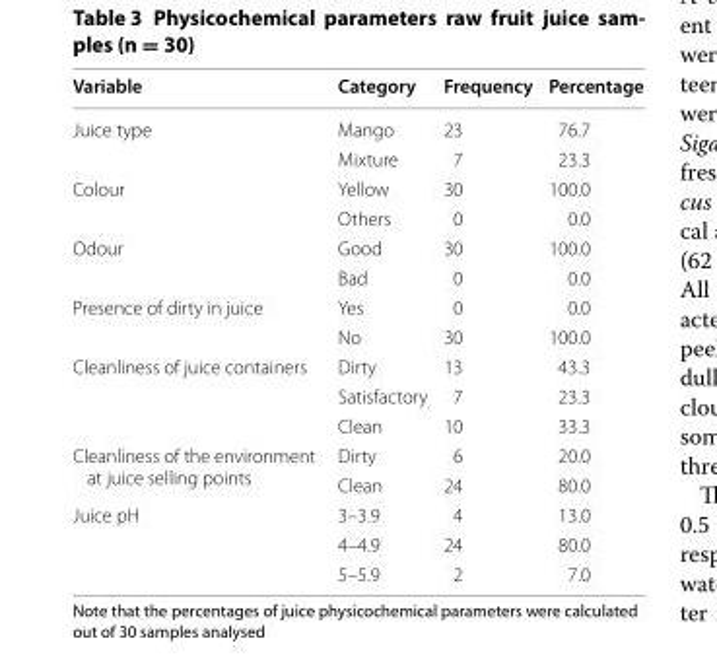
<table><thead><tr><td>Variable</td><td>Category</td><td>Frequency</td><td>Percentage</td></tr></thead><tbody><tr><td rowspan="2">Juice type</td><td>Mango</td><td>23</td><td>76.7</td></tr><tr><td>Mixture</td><td>7</td><td>23.3</td></tr><tr><td rowspan="2">Colour</td><td>Yellow</td><td>30</td><td>100.0</td></tr><tr><td>Others</td><td>0</td><td>0.0</td></tr><tr><td rowspan="2">Odour</td><td>Good</td><td>30</td><td>100.0</td></tr><tr><td>Bad</td><td>0</td><td>0.0</td></tr><tr><td rowspan="2">Presence of dirty in juice</td><td>Yes</td><td>0</td><td>0.0</td></tr><tr><td>No</td><td>30</td><td>100.0</td></tr><tr><td rowspan="3">Cleanliness of juice containers</td><td>Dirty</td><td>13</td><td>43.3</td></tr><tr><td>Satisfactory</td><td>7</td><td>23.3</td></tr><tr><td>Clean</td><td>10</td><td>33.3</td></tr><tr><td rowspan="2">Cleanliness of the environment at juice selling points</td><td>Dirty</td><td>6</td><td>20.0</td></tr><tr><td>Clean</td><td>24</td><td>80.0</td></tr><tr><td rowspan="3">Juice pH</td><td>3–3.9</td><td>4</td><td>13.0</td></tr><tr><td>4–4.9</td><td>24</td><td>80.0</td></tr><tr><td>5–5.9</td><td>2</td><td>7.0</td></tr></tbody></table>